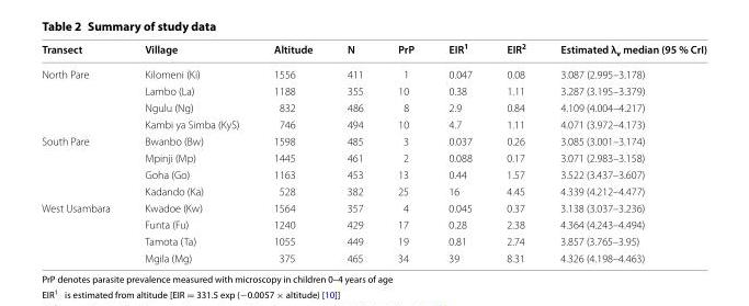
<table><thead><tr><td>Transect</td><td>Village</td><td>Altitude</td><td>N</td><td>PrP</td><td>EIR<sup>1</sup></td><td>EIR<sup>2</sup></td><td>Estimated λ<sub>v</sub> median (95 % CrI)</td></tr></thead><tbody><tr><td rowspan="4">North Pare</td><td>Kilomeni (Ki)</td><td>1556</td><td>411</td><td>1</td><td>0.047</td><td>0.08</td><td>3.087 (2.995–3.178)</td></tr><tr><td>Lambo (La)</td><td>1188</td><td>355</td><td>10</td><td>0.38</td><td>1.11</td><td>3.287 (3.195–3.379)</td></tr><tr><td>Ngulu (Ng)</td><td>832</td><td>486</td><td>8</td><td>2.9</td><td>0.84</td><td>4.109 (4.004–4.217)</td></tr><tr><td>Kambi ya Simba (KyS)</td><td>746</td><td>494</td><td>10</td><td>4.7</td><td>1.11</td><td>4.071 (3.972–4.173)</td></tr><tr><td rowspan="4">South Pare</td><td>Bwanbo (Bw)</td><td>1598</td><td>485</td><td>3</td><td>0.037</td><td>0.26</td><td>3.085 (3.001–3.174)</td></tr><tr><td>Mpinji (Mp)</td><td>1445</td><td>461</td><td>2</td><td>0.088</td><td>0.17</td><td>3.071 (2.983–3.158)</td></tr><tr><td>Goha (Go)</td><td>1163</td><td>453</td><td>13</td><td>0.44</td><td>1.57</td><td>3.522 (3.437–3.607)</td></tr><tr><td>Kadando (Ka)</td><td>528</td><td>382</td><td>25</td><td>16</td><td>4.45</td><td>4.339 (4.212–4.477)</td></tr><tr><td rowspan="4">West Usambara</td><td>Kwadoe (Kw)</td><td>1564</td><td>357</td><td>4</td><td>0.045</td><td>0.37</td><td>3.138 (3.037–3.236)</td></tr><tr><td>Funta (Fu)</td><td>1240</td><td>429</td><td>17</td><td>0.28</td><td>2.38</td><td>4.364 (4.243–4.494)</td></tr><tr><td>Tamota (Ta)</td><td>1055</td><td>449</td><td>19</td><td>0.81</td><td>2.74</td><td>3.857 (3.765–3.95)</td></tr><tr><td>Mgila (Mg)</td><td>375</td><td>465</td><td>34</td><td>39</td><td>8.31</td><td>4.326 (4.198–4.463)</td></tr></tbody></table>